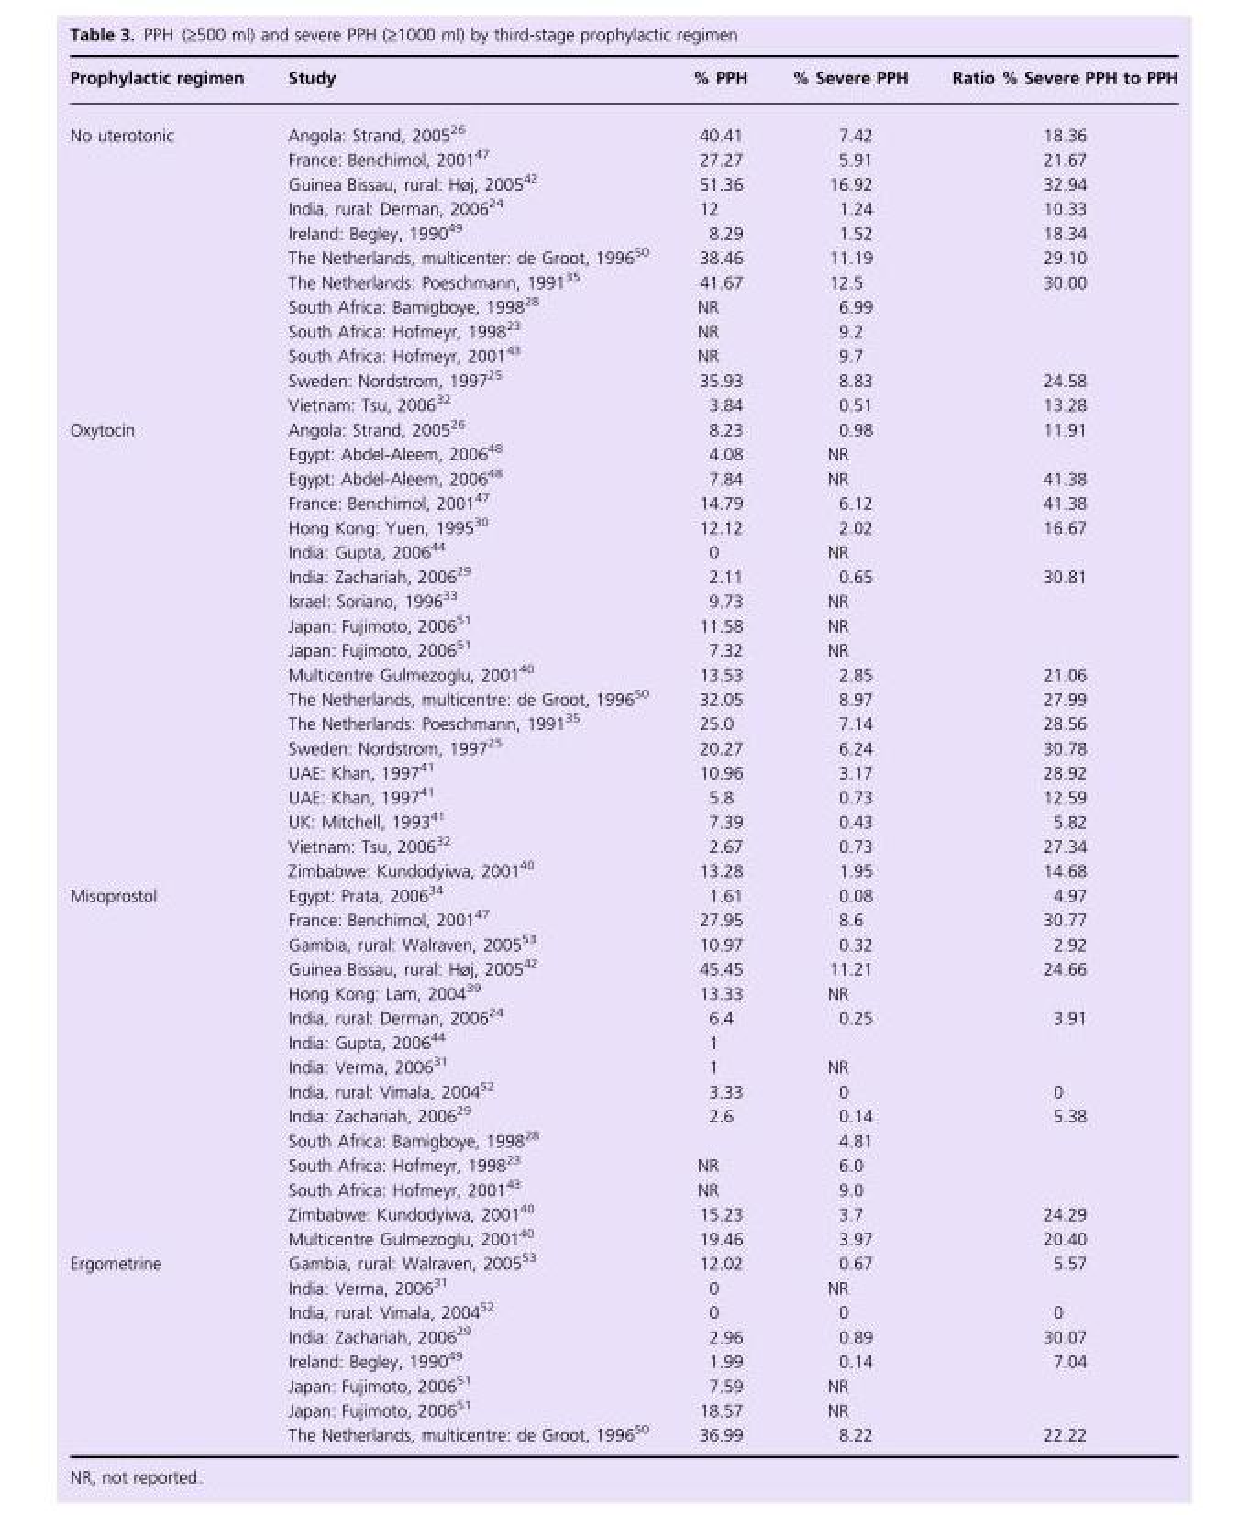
<table><thead><tr><td>Prophylactic regimen</td><td>Study</td><td>% PPH</td><td>% Severe PPH</td><td>Ratio % Severe PPH to PPH</td></tr></thead><tbody><tr><td rowspan="12">No uterotonic</td><td>Angola: Strand, 2005<sup>26</sup></td><td>40.41</td><td>7.42</td><td>18.36</td></tr><tr><td>France: Benchimol, 2001<sup>47</sup></td><td>27.27</td><td>5.91</td><td>21.67</td></tr><tr><td>Guinea Bissau, rural: Høj, 2005<sup>42</sup></td><td>51.36</td><td>16.92</td><td>32.94</td></tr><tr><td>India, rural: Derman, 2006<sup>24</sup></td><td>12</td><td>1.24</td><td>10.33</td></tr><tr><td>Ireland: Begley, 1990<sup>49</sup></td><td>8.29</td><td>1.52</td><td>18.34</td></tr><tr><td>The Netherlands, multicenter: de Groot, 1996<sup>50</sup></td><td>38.46</td><td>11.19</td><td>29.10</td></tr><tr><td>The Netherlands: Poeschmann, 1991<sup>35</sup></td><td>41.67</td><td>12.5</td><td>30.00</td></tr><tr><td>South Africa: Bamigboye, 1998<sup>28</sup></td><td>NR</td><td>6.99</td><td></td></tr><tr><td>South Africa: Hofmeyr, 1998<sup>23</sup></td><td>NR</td><td>9.2</td><td></td></tr><tr><td>South Africa: Hofmeyr, 2001<sup>43</sup></td><td>NR</td><td>9.7</td><td></td></tr><tr><td>Sweden: Nordstrom, 1997<sup>25</sup></td><td>35.93</td><td>8.83</td><td>24.58</td></tr><tr><td>Vietnam: Tsu, 2006<sup>32</sup></td><td>3.84</td><td>0.51</td><td>13.28</td></tr><tr><td rowspan="19">Oxytocin</td><td>Angola: Strand, 2005<sup>26</sup></td><td>8.23</td><td>0.98</td><td>11.91</td></tr><tr><td>Egypt: Abdel-Aleem, 2006<sup>48</sup></td><td>4.08</td><td>NR</td><td></td></tr><tr><td>Egypt: Abdel-Aleem, 2006<sup>48</sup></td><td>7.84</td><td>NR</td><td>41.38</td></tr><tr><td>France: Benchimol, 2001<sup>47</sup></td><td>14.79</td><td>6.12</td><td>41.38</td></tr><tr><td>Hong Kong: Yuen, 1995<sup>30</sup></td><td>12.12</td><td>2.02</td><td>16.67</td></tr><tr><td>India: Gupta, 2006<sup>44</sup></td><td>0</td><td>NR</td><td></td></tr><tr><td>India: Zachariah, 2006<sup>29</sup></td><td>2.11</td><td>0.65</td><td>30.81</td></tr><tr><td>Israel: Soriano, 1996<sup>33</sup></td><td>9.73</td><td>NR</td><td></td></tr><tr><td>Japan: Fujimoto, 2006<sup>51</sup></td><td>11.58</td><td>NR</td><td></td></tr><tr><td>Japan: Fujimoto, 2006<sup>51</sup></td><td>7.32</td><td>NR</td><td></td></tr><tr><td>Multicentre Gulmezoglu, 2001<sup>40</sup></td><td>13.53</td><td>2.85</td><td>21.06</td></tr><tr><td>The Netherlands, multicentre: de Groot, 1996<sup>50</sup></td><td>32.05</td><td>8.97</td><td>27.99</td></tr><tr><td>The Netherlands: Poeschmann, 1991<sup>35</sup></td><td>25.0</td><td>7.14</td><td>28.56</td></tr><tr><td>Sweden: Nordstrom, 1997<sup>25</sup></td><td>20.27</td><td>6.24</td><td>30.78</td></tr><tr><td>UAE: Khan, 1997<sup>41</sup></td><td>10.96</td><td>3.17</td><td>28.92</td></tr><tr><td>UAE: Khan, 1997<sup>41</sup></td><td>5.8</td><td>0.73</td><td>12.59</td></tr><tr><td>UK: Mitchell, 1993<sup>41</sup></td><td>7.39</td><td>0.43</td><td>5.82</td></tr><tr><td>Vietnam: Tsu, 2006<sup>32</sup></td><td>2.67</td><td>0.73</td><td>27.34</td></tr><tr><td>Zimbabwe: Kundodyiwa, 2001<sup>40</sup></td><td>13.28</td><td>1.95</td><td>14.68</td></tr><tr><td rowspan="15">Misoprostol</td><td>Egypt: Prata, 2006<sup>34</sup></td><td>1.61</td><td>0.08</td><td>4.97</td></tr><tr><td>France: Benchimol, 2001<sup>47</sup></td><td>27.95</td><td>8.6</td><td>30.77</td></tr><tr><td>Gambia, rural: Walraven, 2005<sup>53</sup></td><td>10.97</td><td>0.32</td><td>2.92</td></tr><tr><td>Guinea Bissau, rural: Høj, 2005<sup>42</sup></td><td>45.45</td><td>11.21</td><td>24.66</td></tr><tr><td>Hong Kong: Lam, 2004<sup>39</sup></td><td>13.33</td><td>NR</td><td></td></tr><tr><td>India, rural: Derman, 2006<sup>24</sup></td><td>6.4</td><td>0.25</td><td>3.91</td></tr><tr><td>India: Gupta, 2006<sup>44</sup></td><td>1</td><td></td><td></td></tr><tr><td>India: Verma, 2006<sup>31</sup></td><td>1</td><td>NR</td><td></td></tr><tr><td>India, rural: Vimala, 2004<sup>52</sup></td><td>3.33</td><td>0</td><td>0</td></tr><tr><td>India: Zachariah, 2006<sup>29</sup></td><td>2.6</td><td>0.14</td><td>5.38</td></tr><tr><td>South Africa: Bamigboye, 1998<sup>28</sup></td><td></td><td>4.81</td><td></td></tr><tr><td>South Africa: Hofmeyr, 1998<sup>23</sup></td><td>NR</td><td>6.0</td><td></td></tr><tr><td>South Africa: Hofmeyr, 2001<sup>43</sup></td><td>NR</td><td>9.0</td><td></td></tr><tr><td>Zimbabwe: Kundodyiwa, 2001<sup>40</sup></td><td>15.23</td><td>3.7</td><td>24.29</td></tr><tr><td>Multicentre Gulmezoglu, 2001<sup>40</sup></td><td>19.46</td><td>3.97</td><td>20.40</td></tr><tr><td rowspan="8">Ergometrine</td><td>Gambia, rural: Walraven, 2005<sup>53</sup></td><td>12.02</td><td>0.67</td><td>5.57</td></tr><tr><td>India: Verma, 2006<sup>31</sup></td><td>0</td><td>NR</td><td></td></tr><tr><td>India, rural: Vimala, 2004<sup>52</sup></td><td>0</td><td>0</td><td>0</td></tr><tr><td>India: Zachariah, 2006<sup>29</sup></td><td>2.96</td><td>0.89</td><td>30.07</td></tr><tr><td>Ireland: Begley, 1990<sup>49</sup></td><td>1.99</td><td>0.14</td><td>7.04</td></tr><tr><td>Japan: Fujimoto, 2006<sup>51</sup></td><td>7.59</td><td>NR</td><td></td></tr><tr><td>Japan: Fujimoto, 2006<sup>51</sup></td><td>18.57</td><td>NR</td><td></td></tr><tr><td>The Netherlands, multicentre: de Groot, 1996<sup>50</sup></td><td>36.99</td><td>8.22</td><td>22.22</td></tr></tbody></table>